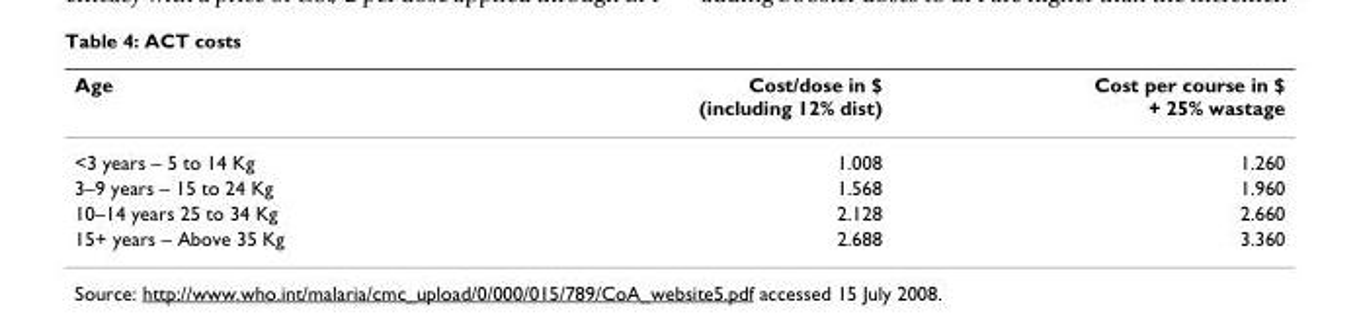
<table><thead><tr><td>Age</td><td>Cost/dose in $ (including 12% dist)</td><td>Cost per course in $ + 25% wastage</td></tr></thead><tbody><tr><td>&lt;3 years – 5 to 14 Kg</td><td>1.008</td><td>1.260</td></tr><tr><td>3–9 years – 15 to 24 Kg</td><td>1.568</td><td>1.960</td></tr><tr><td>10–14 years 25 to 34 Kg</td><td>2.128</td><td>2.660</td></tr><tr><td>15+ years – Above 35 Kg</td><td>2.688</td><td>3.360</td></tr></tbody></table>